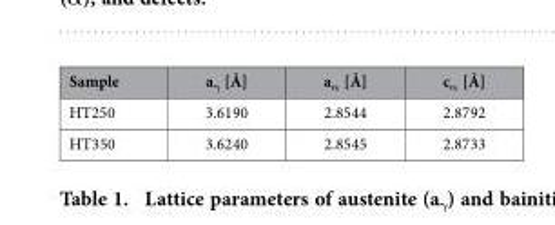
<table><thead><tr><td>Sample</td><td>a<sub>γ</sub> [Å]</td><td>a<sub>α</sub> [Å]</td><td>c<sub>α</sub> [Å]</td></tr></thead><tbody><tr><td>HT250</td><td>3.6190</td><td>2.8544</td><td>2.8792</td></tr><tr><td>HT350</td><td>3.6240</td><td>2.8545</td><td>2.8733</td></tr></tbody></table>